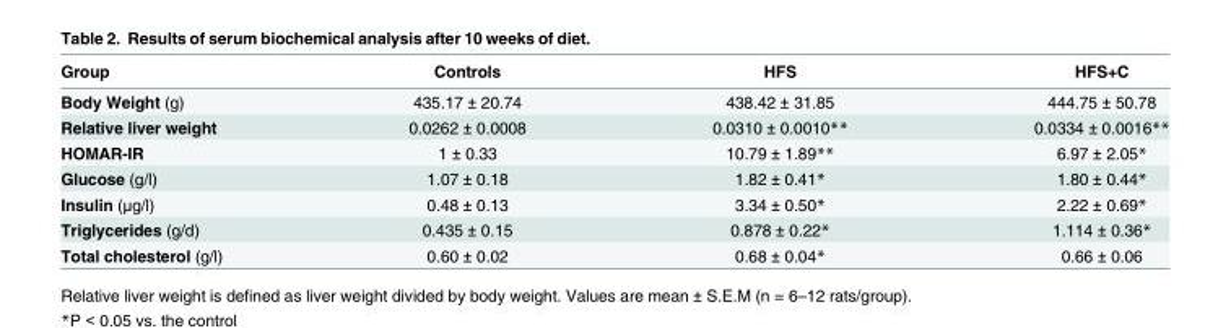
<table><thead><tr><td>Group</td><td>Controls</td><td>HFS</td><td>HFS+C</td></tr></thead><tbody><tr><td>Body Weight (g)</td><td>435.17 ± 20.74</td><td>438.42 ± 31.85</td><td>444.75 ± 50.78</td></tr><tr><td>Relative liver weight</td><td>0.0262 ± 0.0008</td><td>0.0310 ± 0.0010**</td><td>0.0334 ± 0.0016**</td></tr><tr><td>HOMAR-IR</td><td>1 ± 0.33</td><td>10.79 ± 1.89**</td><td>6.97 ± 2.05*</td></tr><tr><td>Glucose (g/l)</td><td>1.07 ± 0.18</td><td>1.82 ± 0.41*</td><td>1.80 ± 0.44*</td></tr><tr><td>Insulin (μg/l)</td><td>0.48 ± 0.13</td><td>3.34 ± 0.50*</td><td>2.22 ± 0.69*</td></tr><tr><td>Triglycerides (g/d)</td><td>0.435 ± 0.15</td><td>0.878 ± 0.22*</td><td>1.114 ± 0.36*</td></tr><tr><td>Total cholesterol (g/l)</td><td>0.60 ± 0.02</td><td>0.68 ± 0.04*</td><td>0.66 ± 0.06</td></tr></tbody></table>